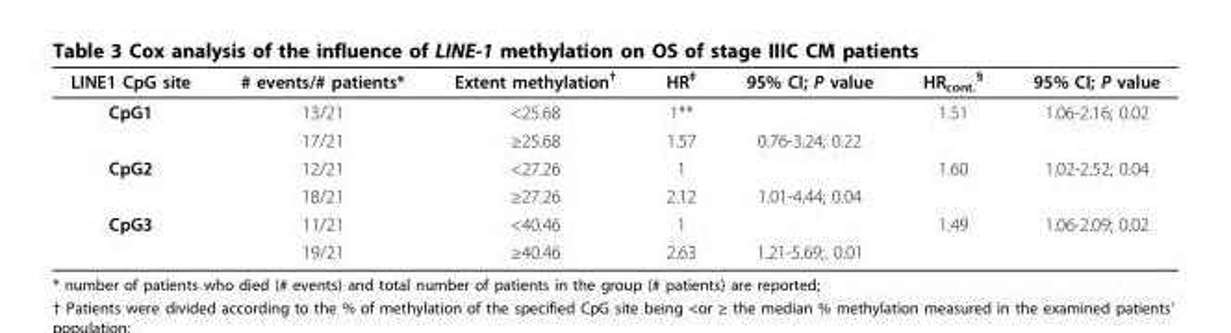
<table><thead><tr><td>LINE1 CpG site</td><td># events/# patients*</td><td>Extent methylation<sup>†</sup></td><td>HR<sup>‡</sup></td><td>95% CI; P value</td><td>HR<sub>cont.</sub> <sup>§</sup></td><td>95% CI; P value</td></tr></thead><tbody><tr><td rowspan="2">CpG1</td><td>13/21</td><td>&lt;25.68</td><td>1**</td><td></td><td>1.51</td><td>1.06-2.16; 0.02</td></tr><tr><td>17/21</td><td>≥25.68</td><td>1.57</td><td>0.76-3.24; 0.22</td><td></td><td></td></tr><tr><td rowspan="2">CpG2</td><td>12/21</td><td>&lt;27.26</td><td>1</td><td></td><td>1.60</td><td>1.02-2.52; 0.04</td></tr><tr><td>18/21</td><td>≥27.26</td><td>2.12</td><td>1.01-4.44; 0.04</td><td></td><td></td></tr><tr><td rowspan="2">CpG3</td><td>11/21</td><td>&lt;40.46</td><td>1</td><td></td><td>1.49</td><td>1.06-2.09; 0.02</td></tr><tr><td>19/21</td><td>≥40.46</td><td>2.63</td><td>1.21-5.69;. 0.01</td><td></td><td></td></tr></tbody></table>